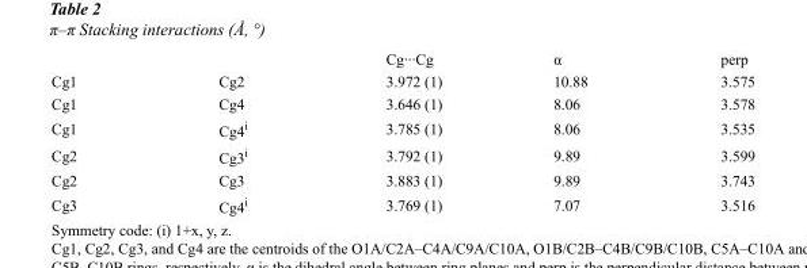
<table><thead><tr><td></td><td></td><td>Cg···Cg</td><td>α</td><td>perp</td></tr></thead><tbody><tr><td>Cg1</td><td>Cg2</td><td>3.972 (1)</td><td>10.88</td><td>3.575</td></tr><tr><td>Cg1</td><td>Cg4</td><td>3.646 (1)</td><td>8.06</td><td>3.578</td></tr><tr><td>Cg1</td><td>Cg4<sup>i</sup></td><td>3.785 (1)</td><td>8.06</td><td>3.535</td></tr><tr><td>Cg2</td><td>Cg3<sup>i</sup></td><td>3.792 (1)</td><td>9.89</td><td>3.599</td></tr><tr><td>Cg2</td><td>Cg3</td><td>3.883 (1)</td><td>9.89</td><td>3.743</td></tr><tr><td>Cg3</td><td>Cg4<sup>i</sup></td><td>3.769 (1)</td><td>7.07</td><td>3.516</td></tr></tbody></table>